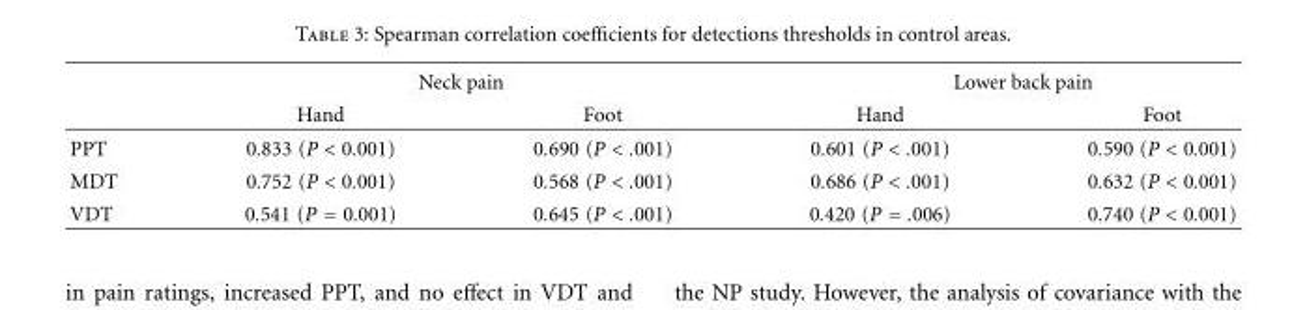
<table><thead><tr><td rowspan="2"></td><td colspan="2">Neck pain</td><td colspan="2">Lower back pain</td></tr><tr><td>Hand</td><td>Foot</td><td>Hand</td><td>Foot</td></tr></thead><tbody><tr><td>PPT</td><td>0.833 (P &lt; 0.001)</td><td>0.690 (P &lt; .001)</td><td>0.601 (P &lt; .001)</td><td>0.590 (P &lt; 0.001)</td></tr><tr><td>MDT</td><td>0.752 (P &lt; 0.001)</td><td>0.568 (P &lt; .001)</td><td>0.686 (P &lt; .001)</td><td>0.632 (P &lt; 0.001)</td></tr><tr><td>VDT</td><td>0.541 (P = 0.001)</td><td>0.645 (P &lt; .001)</td><td>0.420 (P = .006)</td><td>0.740 (P &lt; 0.001)</td></tr></tbody></table>